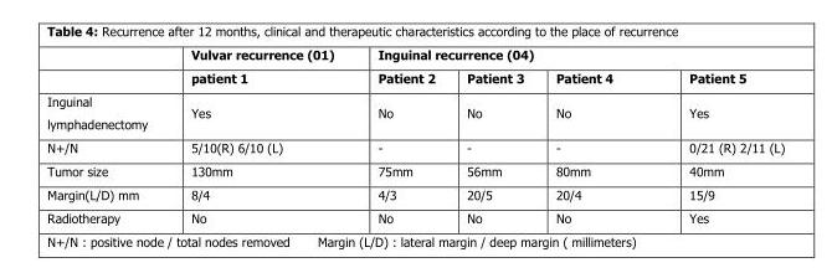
<table><thead><tr><td rowspan="2"></td><td rowspan="2">Vulvar recurrence (01) patient 1</td><td colspan="4">Inguinal recurrence (04)</td></tr><tr><td>Patient 2</td><td>Patient 3</td><td>Patient 4</td><td>Patient 5</td></tr></thead><tbody><tr><td>Inguinal lymphadenectomy</td><td>Yes</td><td>No</td><td>No</td><td>No</td><td>Yes</td></tr><tr><td>N+/N</td><td>5/10(R) 6/10 (L)</td><td>-</td><td>-</td><td>-</td><td>0/21 (R) 2/11 (L)</td></tr><tr><td>Tumor size</td><td>130mm</td><td>75mm</td><td>56mm</td><td>80mm</td><td>40mm</td></tr><tr><td>Margin(L/D) mm</td><td>8/4</td><td>4/3</td><td>20/5</td><td>20/4</td><td>15/9</td></tr><tr><td>Radiotherapy</td><td>No</td><td>No</td><td>No</td><td>No</td><td>Yes</td></tr></tbody></table>